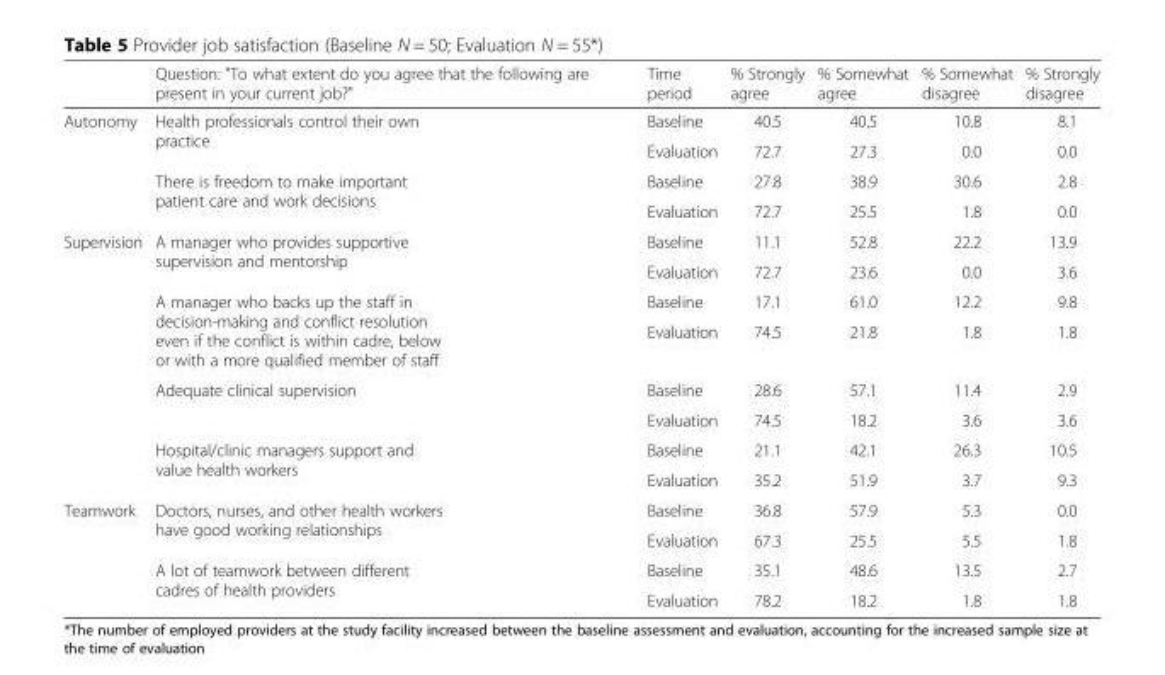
<table><thead><tr><td></td><td>Question: &quot;To what extent do you agree that the following are present in your current job?&quot;</td><td>Time period</td><td>% Strongly agree</td><td>% Somewhat agree</td><td>% Somewhat disagree</td><td>% Strongly disagree</td></tr></thead><tbody><tr><td rowspan="4">Autonomy</td><td rowspan="2">Health professionals control their own practice</td><td>Baseline</td><td>40.5</td><td>40.5</td><td>10.8</td><td>8.1</td></tr><tr><td>Evaluation</td><td>72.7</td><td>27.3</td><td>0.0</td><td>0.0</td></tr><tr><td rowspan="2">There is freedom to make important patient care and work decisions</td><td>Baseline</td><td>27.8</td><td>38.9</td><td>30.6</td><td>2.8</td></tr><tr><td>Evaluation</td><td>72.7</td><td>25.5</td><td>1.8</td><td>0.0</td></tr><tr><td rowspan="8">Supervision</td><td rowspan="2">A manager who provides supportive supervision and mentorship</td><td>Baseline</td><td>11.1</td><td>52.8</td><td>22.2</td><td>13.9</td></tr><tr><td>Evaluation</td><td>72.7</td><td>23.6</td><td>0.0</td><td>3.6</td></tr><tr><td rowspan="2">A manager who backs up the staff in decision-making and conflict resolution even if the conflict is within cadre, below or with a more qualified member of staff</td><td>Baseline</td><td>17.1</td><td>61.0</td><td>12.2</td><td>9.8</td></tr><tr><td>Evaluation</td><td>74.5</td><td>21.8</td><td>1.8</td><td>1.8</td></tr><tr><td rowspan="2">Adequate clinical supervision</td><td>Baseline</td><td>28.6</td><td>57.1</td><td>11.4</td><td>2.9</td></tr><tr><td>Evaluation</td><td>74.5</td><td>18.2</td><td>3.6</td><td>3.6</td></tr><tr><td rowspan="2">Hospital/clinic managers support and value health workers</td><td>Baseline</td><td>21.1</td><td>42.1</td><td>26.3</td><td>10.5</td></tr><tr><td>Evaluation</td><td>35.2</td><td>51.9</td><td>3.7</td><td>9.3</td></tr><tr><td rowspan="4">Teamwork</td><td rowspan="2">Doctors, nurses, and other health workers have good working relationships</td><td>Baseline</td><td>36.8</td><td>57.9</td><td>5.3</td><td>0.0</td></tr><tr><td>Evaluation</td><td>67.3</td><td>25.5</td><td>5.5</td><td>1.8</td></tr><tr><td rowspan="2">A lot of teamwork between different cadres of health providers</td><td>Baseline</td><td>35.1</td><td>48.6</td><td>13.5</td><td>2.7</td></tr><tr><td>Evaluation</td><td>78.2</td><td>18.2</td><td>1.8</td><td>1.8</td></tr></tbody></table>